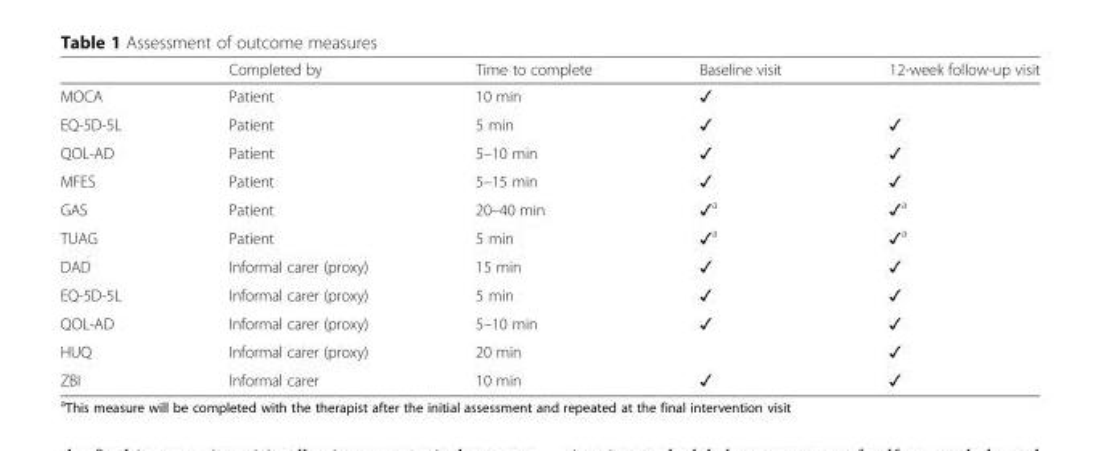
<table><thead><tr><td></td><td>Completed by</td><td>Time to complete</td><td>Baseline visit</td><td>12-week follow-up visit</td></tr></thead><tbody><tr><td>MOCA</td><td>Patient</td><td>10 min</td><td>✓</td><td></td></tr><tr><td>EQ-5D-5L</td><td>Patient</td><td>5 min</td><td>✓</td><td>✓</td></tr><tr><td>QOL-AD</td><td>Patient</td><td>5–10 min</td><td>✓</td><td>✓</td></tr><tr><td>MFES</td><td>Patient</td><td>5–15 min</td><td>✓</td><td>✓</td></tr><tr><td>GAS</td><td>Patient</td><td>20–40 min</td><td>✓<sup>a</sup></td><td>✓<sup>a</sup></td></tr><tr><td>TUAG</td><td>Patient</td><td>5 min</td><td>✓<sup>a</sup></td><td>✓<sup>a</sup></td></tr><tr><td>DAD</td><td>Informal carer (proxy)</td><td>15 min</td><td>✓</td><td>✓</td></tr><tr><td>EQ-5D-5L</td><td>Informal carer (proxy)</td><td>5 min</td><td>✓</td><td>✓</td></tr><tr><td>QOL-AD</td><td>Informal carer (proxy)</td><td>5–10 min</td><td>✓</td><td>✓</td></tr><tr><td>HUQ</td><td>Informal carer (proxy)</td><td>20 min</td><td></td><td>✓</td></tr><tr><td>ZBI</td><td>Informal carer</td><td>10 min</td><td>✓</td><td>✓</td></tr></tbody></table>